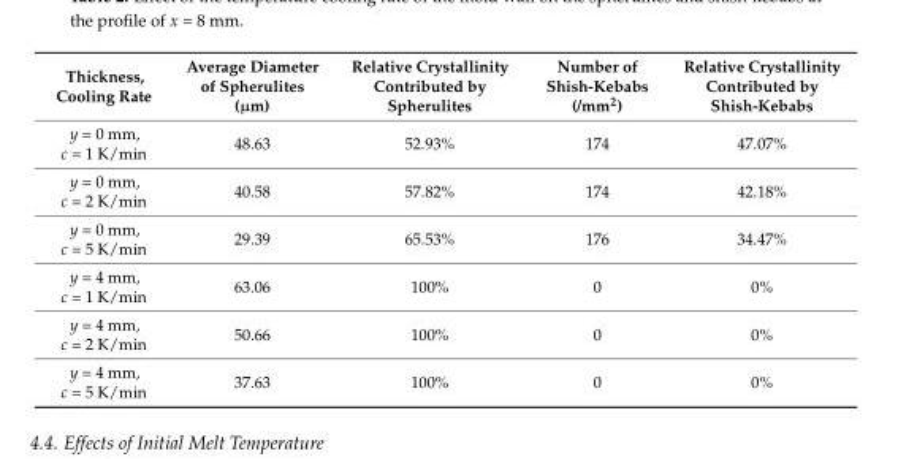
<table><thead><tr><td>Thickness, Cooling Rate</td><td>Average Diameter of Spherulites (µm)</td><td>Relative Crystallinity Contributed by Spherulites</td><td>Number of Shish-Kebabs (/mm<sup>2</sup>)</td><td>Relative Crystallinity Contributed by Shish-Kebabs</td></tr></thead><tbody><tr><td>y = 0 mm, c = 1 K/min</td><td>48.63</td><td>52.93%</td><td>174</td><td>47.07%</td></tr><tr><td>y = 0 mm, c = 2 K/min</td><td>40.58</td><td>57.82%</td><td>174</td><td>42.18%</td></tr><tr><td>y = 0 mm, c = 5 K/min</td><td>29.39</td><td>65.53%</td><td>176</td><td>34.47%</td></tr><tr><td>y = 4 mm, c = 1 K/min</td><td>63.06</td><td>100%</td><td>0</td><td>0%</td></tr><tr><td>y = 4 mm, c = 2 K/min</td><td>50.66</td><td>100%</td><td>0</td><td>0%</td></tr><tr><td>y = 4 mm, c = 5 K/min</td><td>37.63</td><td>100%</td><td>0</td><td>0%</td></tr></tbody></table>